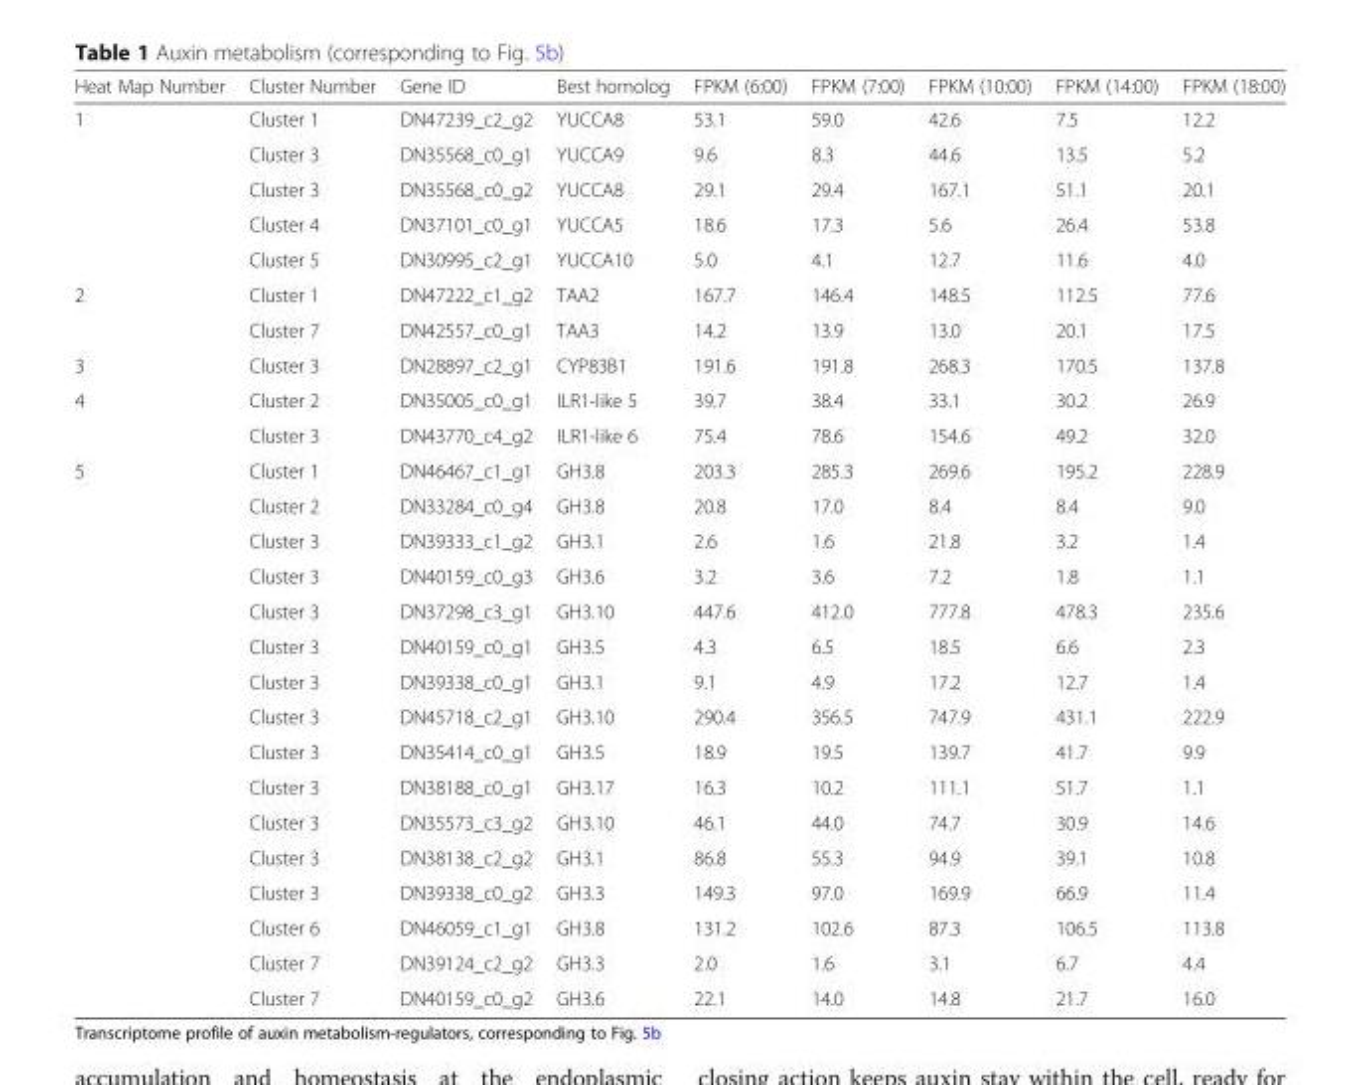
<table><thead><tr><td>Heat Map Number</td><td>Cluster Number</td><td>Gene ID</td><td>Best homolog</td><td>FPKM (6:00)</td><td>FPKM (7:00)</td><td>FPKM (10:00)</td><td>FPKM (14:00)</td><td>FPKM (18:00)</td></tr></thead><tbody><tr><td rowspan="5">1</td><td>Cluster 1</td><td>DN47239_c2_g2</td><td>YUCCA8</td><td>53.1</td><td>59.0</td><td>42.6</td><td>7.5</td><td>12.2</td></tr><tr><td>Cluster 3</td><td>DN35568_c0_g1</td><td>YUCCA9</td><td>9.6</td><td>8.3</td><td>44.6</td><td>13.5</td><td>5.2</td></tr><tr><td>Cluster 3</td><td>DN35568_c0_g2</td><td>YUCCA8</td><td>29.1</td><td>29.4</td><td>167.1</td><td>51.1</td><td>20.1</td></tr><tr><td>Cluster 4</td><td>DN37101_c0_g1</td><td>YUCCA5</td><td>18.6</td><td>17.3</td><td>5.6</td><td>26.4</td><td>53.8</td></tr><tr><td>Cluster 5</td><td>DN30995_c2_g1</td><td>YUCCA10</td><td>5.0</td><td>4.1</td><td>12.7</td><td>11.6</td><td>4.0</td></tr><tr><td rowspan="2">2</td><td>Cluster 1</td><td>DN47222_c1_g2</td><td>TAA2</td><td>167.7</td><td>146.4</td><td>148.5</td><td>112.5</td><td>77.6</td></tr><tr><td>Cluster 7</td><td>DN42557_c0_g1</td><td>TAA3</td><td>14.2</td><td>13.9</td><td>13.0</td><td>20.1</td><td>17.5</td></tr><tr><td>3</td><td>Cluster 3</td><td>DN28897_c2_g1</td><td>CYP83B1</td><td>191.6</td><td>191.8</td><td>268.3</td><td>170.5</td><td>137.8</td></tr><tr><td rowspan="2">4</td><td>Cluster 2</td><td>DN35005_c0_g1</td><td>ILR1-like 5</td><td>39.7</td><td>38.4</td><td>33.1</td><td>30.2</td><td>26.9</td></tr><tr><td>Cluster 3</td><td>DN43770_c4_g2</td><td>ILR1-like 6</td><td>75.4</td><td>78.6</td><td>154.6</td><td>49.2</td><td>32.0</td></tr><tr><td rowspan="16">5</td><td>Cluster 1</td><td>DN46467_c1_g1</td><td>GH3.8</td><td>203.3</td><td>285.3</td><td>269.6</td><td>195.2</td><td>228.9</td></tr><tr><td>Cluster 2</td><td>DN33284_c0_g4</td><td>GH3.8</td><td>20.8</td><td>17.0</td><td>8.4</td><td>8.4</td><td>9.0</td></tr><tr><td>Cluster 3</td><td>DN39333_c1_g2</td><td>GH3.1</td><td>2.6</td><td>1.6</td><td>21.8</td><td>3.2</td><td>1.4</td></tr><tr><td>Cluster 3</td><td>DN40159_c0_g3</td><td>GH3.6</td><td>3.2</td><td>3.6</td><td>7.2</td><td>1.8</td><td>1.1</td></tr><tr><td>Cluster 3</td><td>DN37298_c3_g1</td><td>GH3.10</td><td>447.6</td><td>412.0</td><td>777.8</td><td>478.3</td><td>235.6</td></tr><tr><td>Cluster 3</td><td>DN40159_c0_g1</td><td>GH3.5</td><td>4.3</td><td>6.5</td><td>18.5</td><td>6.6</td><td>2.3</td></tr><tr><td>Cluster 3</td><td>DN39338_c0_g1</td><td>GH3.1</td><td>9.1</td><td>4.9</td><td>17.2</td><td>12.7</td><td>1.4</td></tr><tr><td>Cluster 3</td><td>DN45718_c2_g1</td><td>GH3.10</td><td>290.4</td><td>356.5</td><td>747.9</td><td>431.1</td><td>222.9</td></tr><tr><td>Cluster 3</td><td>DN35414_c0_g1</td><td>GH3.5</td><td>18.9</td><td>19.5</td><td>139.7</td><td>41.7</td><td>9.9</td></tr><tr><td>Cluster 3</td><td>DN38188_c0_g1</td><td>GH3.17</td><td>16.3</td><td>10.2</td><td>111.1</td><td>51.7</td><td>1.1</td></tr><tr><td>Cluster 3</td><td>DN35573_c3_g2</td><td>GH3.10</td><td>46.1</td><td>44.0</td><td>74.7</td><td>30.9</td><td>14.6</td></tr><tr><td>Cluster 3</td><td>DN38138_c2_g2</td><td>GH3.1</td><td>86.8</td><td>55.3</td><td>94.9</td><td>39.1</td><td>10.8</td></tr><tr><td>Cluster 3</td><td>DN39338_c0_g2</td><td>GH3.3</td><td>149.3</td><td>97.0</td><td>169.9</td><td>66.9</td><td>11.4</td></tr><tr><td>Cluster 6</td><td>DN46059_c1_g1</td><td>GH3.8</td><td>131.2</td><td>102.6</td><td>87.3</td><td>106.5</td><td>113.8</td></tr><tr><td>Cluster 7</td><td>DN39124_c2_g2</td><td>GH3.3</td><td>2.0</td><td>1.6</td><td>3.1</td><td>6.7</td><td>4.4</td></tr><tr><td>Cluster 7</td><td>DN40159_c0_g2</td><td>GH3.6</td><td>22.1</td><td>14.0</td><td>14.8</td><td>21.7</td><td>16.0</td></tr></tbody></table>